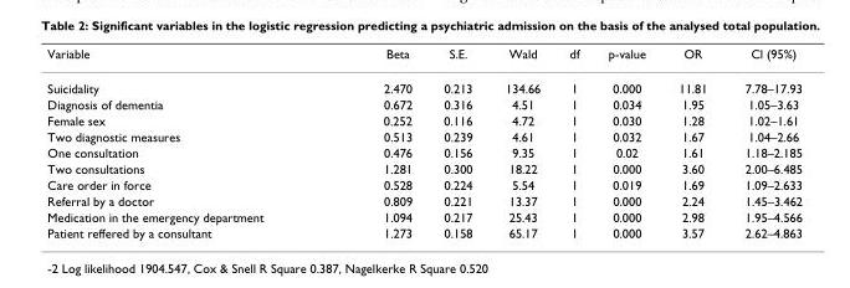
<table><thead><tr><td>Variable</td><td>Beta</td><td>S.E.</td><td>Wald</td><td>df</td><td>p-value</td><td>OR</td><td>Cl (95%)</td></tr></thead><tbody><tr><td>Suicidality</td><td>2.470</td><td>0.213</td><td>134.66</td><td>1</td><td>0.000</td><td>11.81</td><td>7.78–17.93</td></tr><tr><td>Diagnosis of dementia</td><td>0.672</td><td>0.316</td><td>4.51</td><td>1</td><td>0.034</td><td>1.95</td><td>1.05–3.63</td></tr><tr><td>Female sex</td><td>0.252</td><td>0.116</td><td>4.72</td><td>1</td><td>0.030</td><td>1.28</td><td>1.02–1.61</td></tr><tr><td>Two diagnostic measures</td><td>0.513</td><td>0.239</td><td>4.61</td><td>1</td><td>0.032</td><td>1.67</td><td>1.04–2.66</td></tr><tr><td>One consultation</td><td>0.476</td><td>0.156</td><td>9.35</td><td>1</td><td>0.02</td><td>1.61</td><td>1.18–2.185</td></tr><tr><td>Two consultations</td><td>1.281</td><td>0.300</td><td>18.22</td><td>1</td><td>0.000</td><td>3.60</td><td>2.00–6.485</td></tr><tr><td>Care order in force</td><td>0.528</td><td>0.224</td><td>5.54</td><td>1</td><td>0.019</td><td>1.69</td><td>1.09–2.633</td></tr><tr><td>Referral by a doctor</td><td>0.809</td><td>0.221</td><td>13.37</td><td>1</td><td>0.000</td><td>2.24</td><td>1.45–3.462</td></tr><tr><td>Medication in the emergency department</td><td>1.094</td><td>0.217</td><td>25.43</td><td>1</td><td>0.000</td><td>2.98</td><td>1.95–4.566</td></tr><tr><td>Patient reffered by a consultant</td><td>1.273</td><td>0.158</td><td>65.17</td><td>1</td><td>0.000</td><td>3.57</td><td>2.62–4.863</td></tr></tbody></table>